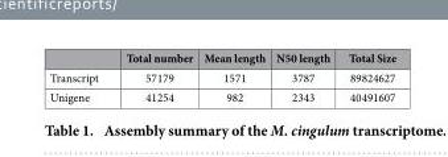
<table><thead><tr><td></td><td>Total number</td><td>Mean length</td><td>N50 length</td><td>Total Size</td></tr></thead><tbody><tr><td>Transcript</td><td>57179</td><td>1571</td><td>3787</td><td>89824627</td></tr><tr><td>Unigene</td><td>41254</td><td>982</td><td>2343</td><td>40491607</td></tr></tbody></table>